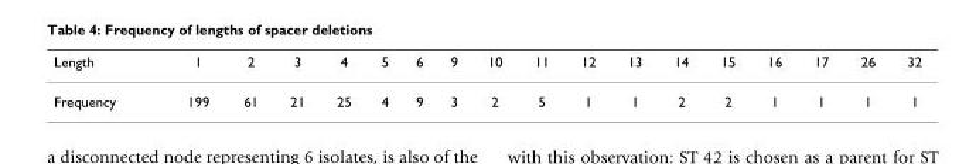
<table><thead><tr><td>Length</td><td>1</td><td>2</td><td>3</td><td>4</td><td>5</td><td>6</td><td>9</td><td>10</td><td>11</td><td>12</td><td>13</td><td>14</td><td>15</td><td>16</td><td>17</td><td>26</td><td>32</td></tr></thead><tbody><tr><td>Frequency</td><td>199</td><td>61</td><td>21</td><td>25</td><td>4</td><td>9</td><td>3</td><td>2</td><td>5</td><td>1</td><td>1</td><td>2</td><td>2</td><td>1</td><td>1</td><td>1</td><td>1</td></tr></tbody></table>